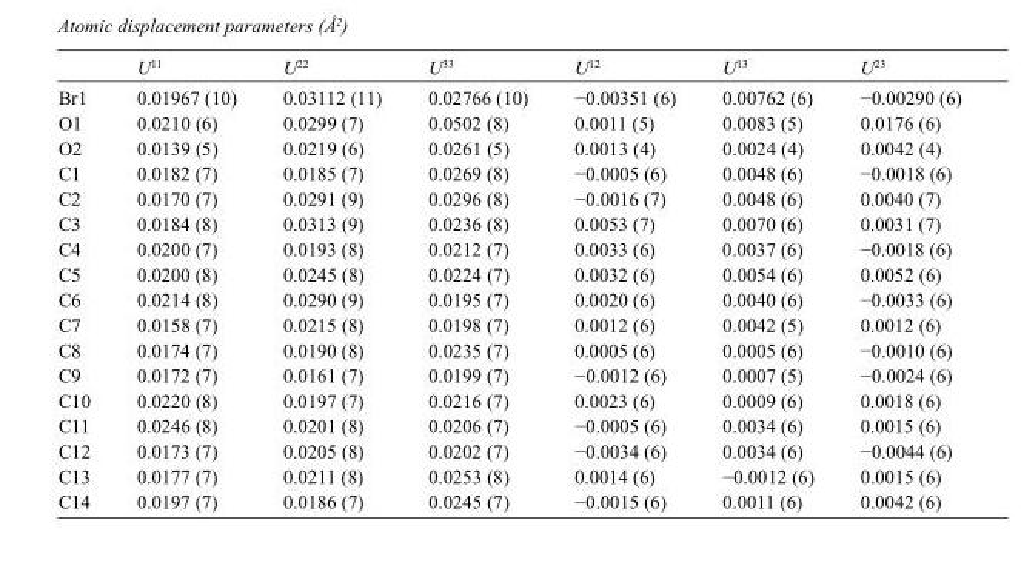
<table><thead><tr><td></td><td>U<sup>11</sup></td><td>U<sup>22</sup></td><td>U<sup>33</sup></td><td>U<sup>12</sup></td><td>U<sup>13</sup></td><td>U<sup>23</sup></td></tr></thead><tbody><tr><td>Br1</td><td>0.01967 (10)</td><td>0.03112 (11)</td><td>0.02766 (10)</td><td>−0.00351 (6)</td><td>0.00762 (6)</td><td>−0.00290 (6)</td></tr><tr><td>O1</td><td>0.0210 (6)</td><td>0.0299 (7)</td><td>0.0502 (8)</td><td>0.0011 (5)</td><td>0.0083 (5)</td><td>0.0176 (6)</td></tr><tr><td>O2</td><td>0.0139 (5)</td><td>0.0219 (6)</td><td>0.0261 (5)</td><td>0.0013 (4)</td><td>0.0024 (4)</td><td>0.0042 (4)</td></tr><tr><td>C1</td><td>0.0182 (7)</td><td>0.0185 (7)</td><td>0.0269 (8)</td><td>−0.0005 (6)</td><td>0.0048 (6)</td><td>−0.0018 (6)</td></tr><tr><td>C2</td><td>0.0170 (7)</td><td>0.0291 (9)</td><td>0.0296 (8)</td><td>−0.0016 (7)</td><td>0.0048 (6)</td><td>0.0040 (7)</td></tr><tr><td>C3</td><td>0.0184 (8)</td><td>0.0313 (9)</td><td>0.0236 (8)</td><td>0.0053 (7)</td><td>0.0070 (6)</td><td>0.0031 (7)</td></tr><tr><td>C4</td><td>0.0200 (7)</td><td>0.0193 (8)</td><td>0.0212 (7)</td><td>0.0033 (6)</td><td>0.0037 (6)</td><td>−0.0018 (6)</td></tr><tr><td>C5</td><td>0.0200 (8)</td><td>0.0245 (8)</td><td>0.0224 (7)</td><td>0.0032 (6)</td><td>0.0054 (6)</td><td>0.0052 (6)</td></tr><tr><td>C6</td><td>0.0214 (8)</td><td>0.0290 (9)</td><td>0.0195 (7)</td><td>0.0020 (6)</td><td>0.0040 (6)</td><td>−0.0033 (6)</td></tr><tr><td>C7</td><td>0.0158 (7)</td><td>0.0215 (8)</td><td>0.0198 (7)</td><td>0.0012 (6)</td><td>0.0042 (5)</td><td>0.0012 (6)</td></tr><tr><td>C8</td><td>0.0174 (7)</td><td>0.0190 (8)</td><td>0.0235 (7)</td><td>0.0005 (6)</td><td>0.0005 (6)</td><td>−0.0010 (6)</td></tr><tr><td>C9</td><td>0.0172 (7)</td><td>0.0161 (7)</td><td>0.0199 (7)</td><td>−0.0012 (6)</td><td>0.0007 (5)</td><td>−0.0024 (6)</td></tr><tr><td>C10</td><td>0.0220 (8)</td><td>0.0197 (7)</td><td>0.0216 (7)</td><td>0.0023 (6)</td><td>0.0009 (6)</td><td>0.0018 (6)</td></tr><tr><td>C11</td><td>0.0246 (8)</td><td>0.0201 (8)</td><td>0.0206 (7)</td><td>−0.0005 (6)</td><td>0.0034 (6)</td><td>0.0015 (6)</td></tr><tr><td>C12</td><td>0.0173 (7)</td><td>0.0205 (8)</td><td>0.0202 (7)</td><td>−0.0034 (6)</td><td>0.0034 (6)</td><td>−0.0044 (6)</td></tr><tr><td>C13</td><td>0.0177 (7)</td><td>0.0211 (8)</td><td>0.0253 (8)</td><td>0.0014 (6)</td><td>−0.0012 (6)</td><td>0.0015 (6)</td></tr><tr><td>C14</td><td>0.0197 (7)</td><td>0.0186 (7)</td><td>0.0245 (7)</td><td>−0.0015 (6)</td><td>0.0011 (6)</td><td>0.0042 (6)</td></tr></tbody></table>